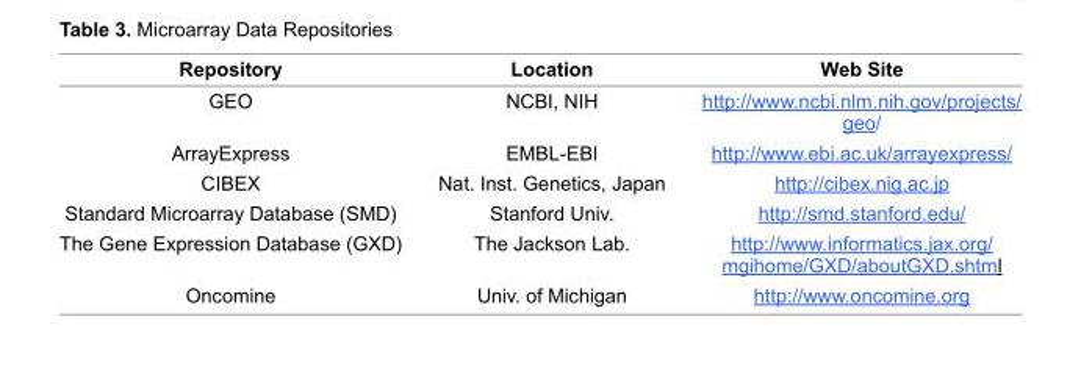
<table><thead><tr><td>Repository</td><td>Location</td><td>Web Site</td></tr></thead><tbody><tr><td>GEO</td><td>NCBI, NIH</td><td>http://www.ncbi.nlm.nih.gov/projects/ geo/</td></tr><tr><td>ArrayExpress</td><td>EMBL-EBI</td><td>http://www.ebi.ac.uk/arrayexpress/</td></tr><tr><td>CIBEX</td><td>Nat. Inst. Genetics, Japan</td><td>http://cibex.nig.ac.jp</td></tr><tr><td>Standard Microarray Database (SMD)</td><td>Stanford Univ.</td><td>http://smd.stanford.edu/</td></tr><tr><td>The Gene Expression Database (GXD)</td><td>The Jackson Lab.</td><td>http://www.informatics.jax.org/ mgihome/GXD/aboutGXD.shtml</td></tr><tr><td>Oncomine</td><td>Univ. of Michigan</td><td>http://www.oncomine.org</td></tr></tbody></table>